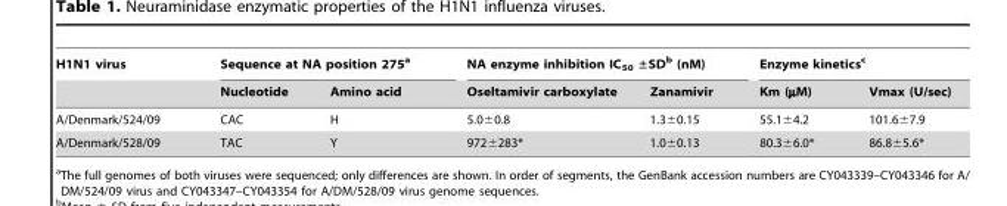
<table><thead><tr><td rowspan="2">H1N1 virus</td><td colspan="2">Sequence at NA position 275<sup>a</sup></td><td colspan="2">NA enzyme inhibition IC<sub>50</sub> ±SD<sup>b</sup> (nM)</td><td colspan="2">Enzyme kinetics<sup>c</sup></td></tr><tr><td>Nucleotide</td><td>Amino acid</td><td>Oseltamivir carboxylate</td><td>Zanamivir</td><td>Km (µM)</td><td>Vmax (U/sec)</td></tr></thead><tbody><tr><td>A/Denmark/524/09</td><td>CAC</td><td>H</td><td>5.0±0.8</td><td>1.3±0.15</td><td>55.1±4.2</td><td>101.6±7.9</td></tr><tr><td>A/Denmark/528/09</td><td>TAC</td><td>Y</td><td>972±283*</td><td>1.0±0.13</td><td>80.3±6.0*</td><td>86.8±5.6*</td></tr></tbody></table>